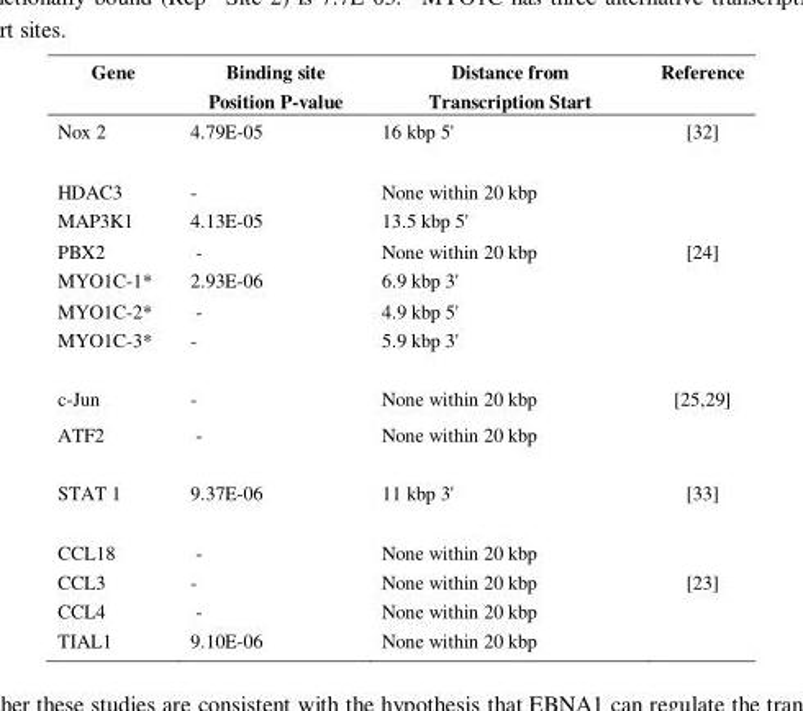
<table><thead><tr><td>Gene</td><td>Binding site Position P-value</td><td>Distance from Transcription Start</td><td>Reference</td></tr></thead><tbody><tr><td>Nox 2</td><td>4.79E-05</td><td>16 kbp 5&#x27;</td><td>[32]</td></tr><tr><td>HDAC3</td><td>-</td><td>None within 20 kbp</td><td></td></tr><tr><td>MAP3K1</td><td>4.13E-05</td><td>13.5 kbp 5&#x27;</td><td></td></tr><tr><td>PBX2</td><td>-</td><td>None within 20 kbp</td><td>[24]</td></tr><tr><td>MYO1C-1*</td><td>2.93E-06</td><td>6.9 kbp 3&#x27;</td><td></td></tr><tr><td>MYO1C-2*</td><td>-</td><td>4.9 kbp 5&#x27;</td><td></td></tr><tr><td>MYO1C-3*</td><td>-</td><td>5.9 kbp 3&#x27;</td><td></td></tr><tr><td>c-Jun</td><td>-</td><td>None within 20 kbp</td><td>[25,29]</td></tr><tr><td>ATF2</td><td>-</td><td>None within 20 kbp</td><td></td></tr><tr><td>STAT 1</td><td>9.37E-06</td><td>11 kbp 3&#x27;</td><td>[33]</td></tr><tr><td>CCL18</td><td>-</td><td>None within 20 kbp</td><td></td></tr><tr><td>CCL3</td><td>-</td><td>None within 20 kbp</td><td>[23]</td></tr><tr><td>CCL4</td><td>-</td><td>None within 20 kbp</td><td></td></tr><tr><td>TIAL1</td><td>9.10E-06</td><td>None within 20 kbp</td><td></td></tr></tbody></table>